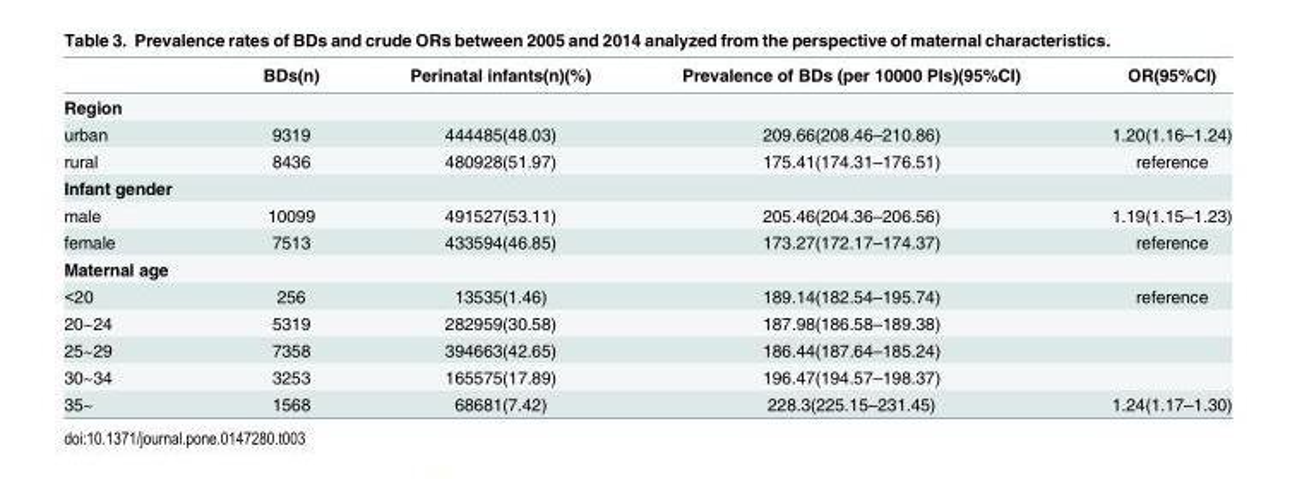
<table><thead><tr><td></td><td>BDs(n)</td><td>Perinatal infants(n)(%)</td><td>Prevalence of BDs (per 10000 PIs)(95%CI)</td><td>OR(95%CI)</td></tr></thead><tbody><tr><td colspan="5">Region</td></tr><tr><td>urban</td><td>9319</td><td>444485(48.03)</td><td>209.66(208.46–210.86)</td><td>1.20(1.16–1.24)</td></tr><tr><td>rural</td><td>8436</td><td>480928(51.97)</td><td>175.41(174.31–176.51)</td><td>reference</td></tr><tr><td colspan="5">Infant gender</td></tr><tr><td>male</td><td>10099</td><td>491527(53.11)</td><td>205.46(204.36–206.56)</td><td>1.19(1.15–1.23)</td></tr><tr><td>female</td><td>7513</td><td>433594(46.85)</td><td>173.27(172.17–174.37)</td><td>reference</td></tr><tr><td colspan="5">Maternal age</td></tr><tr><td>&lt;20</td><td>256</td><td>13535(1.46)</td><td>189.14(182.54–195.74)</td><td>reference</td></tr><tr><td>20~24</td><td>5319</td><td>282959(30.58)</td><td>187.98(186.58–189.38)</td><td></td></tr><tr><td>25~29</td><td>7358</td><td>394663(42.65)</td><td>186.44(187.64–185.24)</td><td></td></tr><tr><td>30~34</td><td>3253</td><td>165575(17.89)</td><td>196.47(194.57–198.37)</td><td></td></tr><tr><td>35~</td><td>1568</td><td>68681(7.42)</td><td>228.3(225.15–231.45)</td><td>1.24(1.17–1.30)</td></tr></tbody></table>